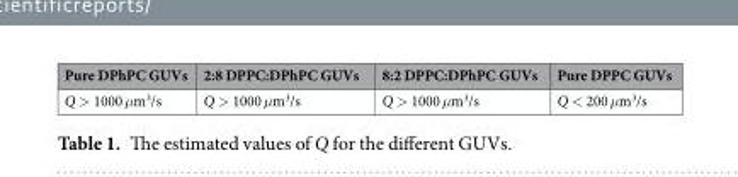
<table><thead><tr><td>Pure DPhPC GUVs</td><td>2:8 DPPC:DPhPC GUVs</td><td>8:2 DPPC:DPhPC GUVs</td><td>Pure DPPC GUVs</td></tr></thead><tbody><tr><td>Q &gt; 1000 μm<sup>3</sup>/s</td><td>Q &gt; 1000 μm<sup>3</sup>/s</td><td>Q &gt; 1000 μm<sup>3</sup>/s</td><td>Q &lt; 200 μm<sup>3</sup>/s</td></tr></tbody></table>